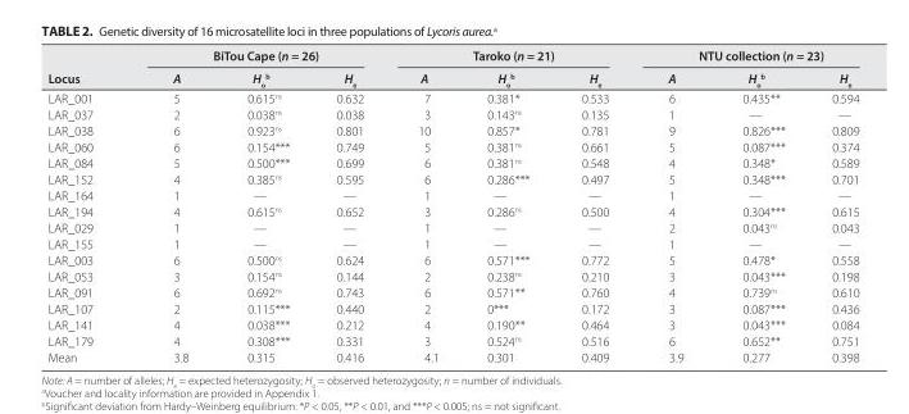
<table><thead><tr><td rowspan="2">Locus</td><td colspan="3">BiTou Cape (n = 26)</td><td colspan="3">Taroko (n = 21)</td><td colspan="3">NTU collection (n = 23)</td></tr><tr><td>A</td><td>H<sub>o</sub> b</td><td>H<sub>e</sub></td><td>A</td><td>H<sub>o</sub> b</td><td>H<sub>e</sub></td><td>A</td><td>H<sub>o</sub> b</td><td>H<sub>e</sub></td></tr></thead><tbody><tr><td>LAR_001</td><td>5</td><td>0.615<sup>ns</sup></td><td>0.632</td><td>7</td><td>0.381*</td><td>0.533</td><td>6</td><td>0.435**</td><td>0.594</td></tr><tr><td>LAR_037</td><td>2</td><td>0.038<sup>ns</sup></td><td>0.038</td><td>3</td><td>0.143<sup>ns</sup></td><td>0.135</td><td>1</td><td>—</td><td>—</td></tr><tr><td>LAR_038</td><td>6</td><td>0.923<sup>ns</sup></td><td>0.801</td><td>10</td><td>0.857*</td><td>0.781</td><td>9</td><td>0.826***</td><td>0.809</td></tr><tr><td>LAR_060</td><td>6</td><td>0.154***</td><td>0.749</td><td>5</td><td>0.381<sup>ns</sup></td><td>0.661</td><td>5</td><td>0.087***</td><td>0.374</td></tr><tr><td>LAR_084</td><td>5</td><td>0.500***</td><td>0.699</td><td>6</td><td>0.381<sup>ns</sup></td><td>0.548</td><td>4</td><td>0.348*</td><td>0.589</td></tr><tr><td>LAR_152</td><td>4</td><td>0.385<sup>ns</sup></td><td>0.595</td><td>6</td><td>0.286***</td><td>0.497</td><td>5</td><td>0.348***</td><td>0.701</td></tr><tr><td>LAR_164</td><td>1</td><td>—</td><td>—</td><td>1</td><td>—</td><td>—</td><td>1</td><td>—</td><td>—</td></tr><tr><td>LAR_194</td><td>4</td><td>0.615<sup>ns</sup></td><td>0.652</td><td>3</td><td>0.286<sup>ns</sup></td><td>0.500</td><td>4</td><td>0.304***</td><td>0.615</td></tr><tr><td>LAR_029</td><td>1</td><td>—</td><td>—</td><td>1</td><td>—</td><td>—</td><td>2</td><td>0.043<sup>ns</sup></td><td>0.043</td></tr><tr><td>LAR_155</td><td>1</td><td>—</td><td>—</td><td>1</td><td>—</td><td>—</td><td>1</td><td>—</td><td>—</td></tr><tr><td>LAR_003</td><td>6</td><td>0.500<sup>ns</sup></td><td>0.624</td><td>6</td><td>0.571***</td><td>0.772</td><td>5</td><td>0.478*</td><td>0.558</td></tr><tr><td>LAR_053</td><td>3</td><td>0.154<sup>ns</sup></td><td>0.144</td><td>2</td><td>0.238<sup>ns</sup></td><td>0.210</td><td>3</td><td>0.043***</td><td>0.198</td></tr><tr><td>LAR_091</td><td>6</td><td>0.692<sup>ns</sup></td><td>0.743</td><td>6</td><td>0.571**</td><td>0.760</td><td>4</td><td>0.739<sup>ns</sup></td><td>0.610</td></tr><tr><td>LAR_107</td><td>2</td><td>0.115***</td><td>0.440</td><td>2</td><td>0***</td><td>0.172</td><td>3</td><td>0.087***</td><td>0.436</td></tr><tr><td>LAR_141</td><td>4</td><td>0.038***</td><td>0.212</td><td>4</td><td>0.190**</td><td>0.464</td><td>3</td><td>0.043***</td><td>0.084</td></tr><tr><td>LAR_179</td><td>4</td><td>0.308***</td><td>0.331</td><td>3</td><td>0.524<sup>ns</sup></td><td>0.516</td><td>6</td><td>0.652**</td><td>0.751</td></tr><tr><td>Mean</td><td>3.8</td><td>0.315</td><td>0.416</td><td>4.1</td><td>0.301</td><td>0.409</td><td>3.9</td><td>0.277</td><td>0.398</td></tr></tbody></table>